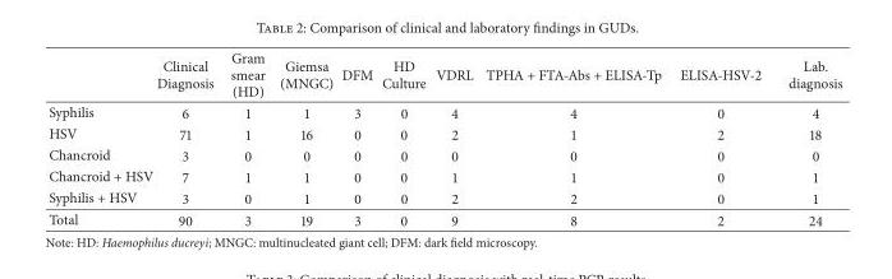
<table><thead><tr><td></td><td>Clinical Diagnosis</td><td>Gram smear (HD)</td><td>Giemsa (MNGC)</td><td>DFM</td><td>HD Culture</td><td>VDRL</td><td>TPHA + FTA-Abs + ELISA-Tp</td><td>ELISA-HSV-2</td><td>Lab. diagnosis</td></tr></thead><tbody><tr><td>Syphilis</td><td>6</td><td>1</td><td>1</td><td>3</td><td>0</td><td>4</td><td>4</td><td>0</td><td>4</td></tr><tr><td>HSV</td><td>71</td><td>1</td><td>16</td><td>0</td><td>0</td><td>2</td><td>1</td><td>2</td><td>18</td></tr><tr><td>Chancroid</td><td>3</td><td>0</td><td>0</td><td>0</td><td>0</td><td>0</td><td>0</td><td>0</td><td>0</td></tr><tr><td>Chancroid + HSV</td><td>7</td><td>1</td><td>1</td><td>0</td><td>0</td><td>1</td><td>1</td><td>0</td><td>1</td></tr><tr><td>Syphilis + HSV</td><td>3</td><td>0</td><td>1</td><td>0</td><td>0</td><td>2</td><td>2</td><td>0</td><td>1</td></tr><tr><td>Total</td><td>90</td><td>3</td><td>19</td><td>3</td><td>0</td><td>9</td><td>8</td><td>2</td><td>24</td></tr></tbody></table>